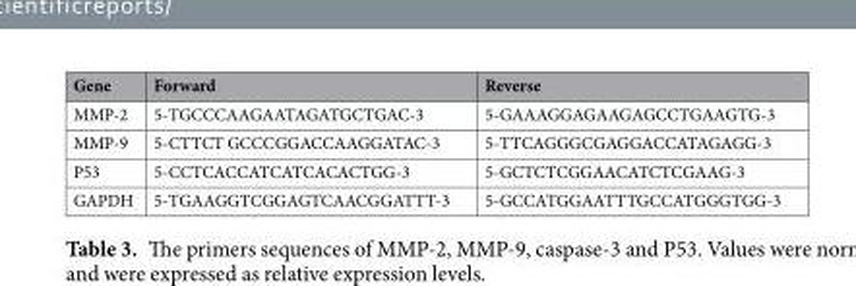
<table><thead><tr><td>Gene</td><td>Forward</td><td>Reverse</td></tr></thead><tbody><tr><td>MMP-2</td><td>5-TGCCCAAGAATAGATGCTGAC-3</td><td>5-GAAAGGAGAAGAGCCTGAAGTG-3</td></tr><tr><td>MMP-9</td><td>5-CTTCT GCCCGGACCAAGGATAC-3</td><td>5-TTCAGGGCGAGGACCATAGAGG-3</td></tr><tr><td>P53</td><td>5-CCTCACCATCATCACACTGG-3</td><td>5-GCTCTCGGAACATCTCGAAG-3</td></tr><tr><td>GAPDH</td><td>5-TGAAGGTCGGAGTCAACGGATTT-3</td><td>5-GCCATGGAATTTGCCATGGGTGG-3</td></tr></tbody></table>